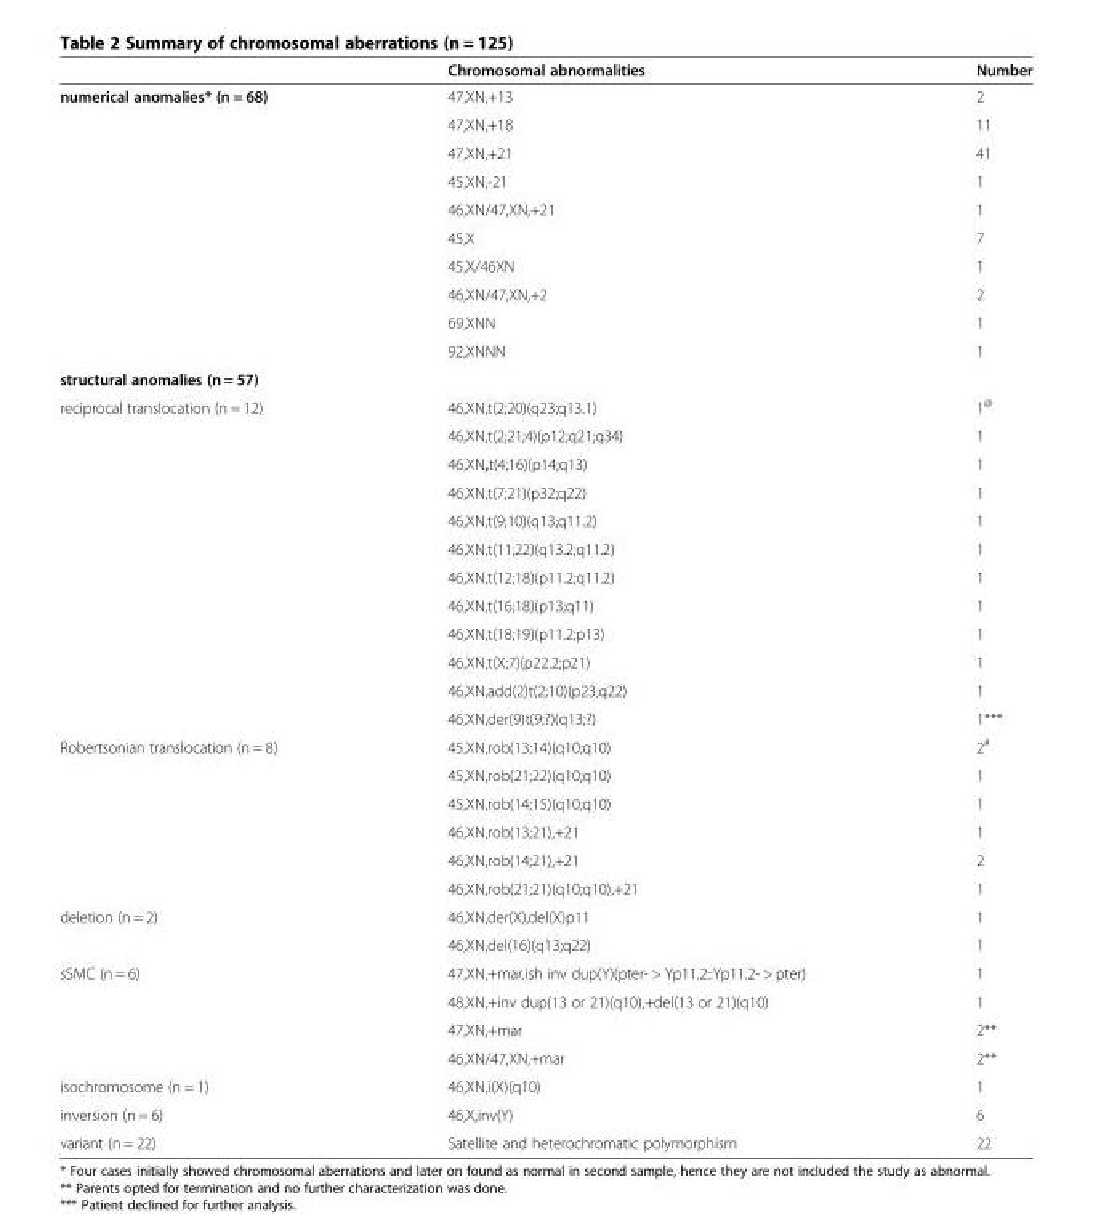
<table><thead><tr><td></td><td>Chromosomal abnormalities</td><td>Number</td></tr></thead><tbody><tr><td rowspan="10">numerical anomalies* (n = 68)</td><td>47,XN,+13</td><td>2</td></tr><tr><td>47,XN,+18</td><td>11</td></tr><tr><td>47,XN,+21</td><td>41</td></tr><tr><td>45,XN,-21</td><td>1</td></tr><tr><td>46,XN/47,XN,+21</td><td>1</td></tr><tr><td>45,X</td><td>7</td></tr><tr><td>45,X/46XN</td><td>1</td></tr><tr><td>46,XN/47,XN,+2</td><td>2</td></tr><tr><td>69,XNN</td><td>1</td></tr><tr><td>92,XNNN</td><td>1</td></tr><tr><td colspan="3">structural anomalies (n = 57)</td></tr><tr><td rowspan="12">reciprocal translocation (n = 12)</td><td>46,XN,t(2;20)(q23;q13.1)</td><td>1<sup>@</sup></td></tr><tr><td>46,XN,t(2;21;4)(p12;q21;q34)</td><td>1</td></tr><tr><td>46,XN,t(4;16)(p14;q13)</td><td>1</td></tr><tr><td>46,XN,t(7;21)(p32;q22)</td><td>1</td></tr><tr><td>46,XN,t(9;10)(q13;q11.2)</td><td>1</td></tr><tr><td>46,XN,t(11;22)(q13.2;q11.2)</td><td>1</td></tr><tr><td>46,XN,t(12;18)(p11.2;q11.2)</td><td>1</td></tr><tr><td>46,XN,t(16;18)(p13;q11)</td><td>1</td></tr><tr><td>46,XN,t(18;19)(p11.2;p13)</td><td>1</td></tr><tr><td>46,XN,t(X;7)(p22.2;p21)</td><td>1</td></tr><tr><td>46,XN,add(2)t(2;10)(p23;q22)</td><td>1</td></tr><tr><td>46,XN,der(9)t(9;?)(q13;?)</td><td>1***</td></tr><tr><td rowspan="6">Robertsonian translocation (n = 8)</td><td>45,XN,rob(13;14)(q10;q10)</td><td>2<sup>#</sup></td></tr><tr><td>45,XN,rob(21;22)(q10;q10)</td><td>1</td></tr><tr><td>45,XN,rob(14;15)(q10;q10)</td><td>1</td></tr><tr><td>46,XN,rob(13;21),+21</td><td>1</td></tr><tr><td>46,XN,rob(14;21),+21</td><td>2</td></tr><tr><td>46,XN,rob(21;21)(q10;q10),+21</td><td>1</td></tr><tr><td rowspan="2">deletion (n = 2)</td><td>46,XN,der(X),del(X)p11</td><td>1</td></tr><tr><td>46,XN,del(16)(q13;q22)</td><td>1</td></tr><tr><td rowspan="4">sSMC (n = 6)</td><td>47,XN,+mar.ish inv dup(Y)(pter- &gt; Yp11.2::Yp11.2- &gt; pter)</td><td>1</td></tr><tr><td>48,XN,+inv dup(13 or 21)(q10),+del(13 or 21)(q10)</td><td>1</td></tr><tr><td>47,XN,+mar</td><td>2**</td></tr><tr><td>46,XN/47,XN,+mar</td><td>2**</td></tr><tr><td>isochromosome (n = 1)</td><td>46,XN,i(X)(q10)</td><td>1</td></tr><tr><td>inversion (n = 6)</td><td>46,X,inv(Y)</td><td>6</td></tr><tr><td>variant (n = 22)</td><td>Satellite and heterochromatic polymorphism</td><td>22</td></tr></tbody></table>